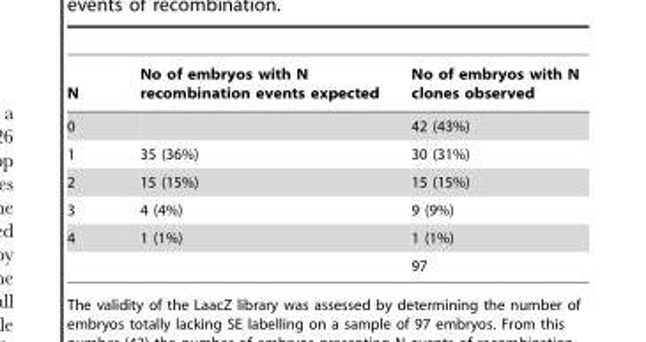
<table><thead><tr><td>N</td><td>No of embryos with N recombination events expected</td><td>No of embryos with N clones observed</td></tr></thead><tbody><tr><td>0</td><td></td><td>42 (43%)</td></tr><tr><td>1</td><td>35 (36%)</td><td>30 (31%)</td></tr><tr><td>2</td><td>15 (15%)</td><td>15 (15%)</td></tr><tr><td>3</td><td>4 (4%)</td><td>9 (9%)</td></tr><tr><td rowspan="2">4</td><td>1 (1%)</td><td>1 (1%)</td></tr><tr><td></td><td>97</td></tr></tbody></table>